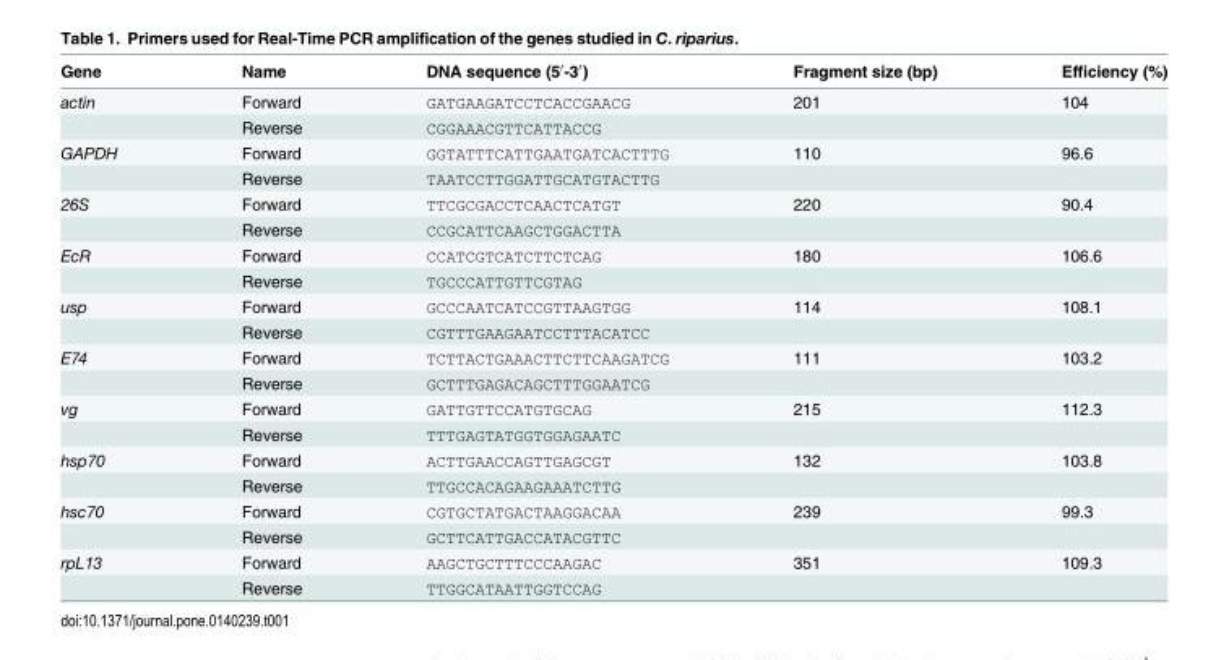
<table><thead><tr><td>Gene</td><td>Name</td><td>DNA sequence (5′-3′)</td><td>Fragment size (bp)</td><td>Efficiency (%)</td></tr></thead><tbody><tr><td rowspan="2">actin</td><td>Forward</td><td>GATGAAGATCCTCACCGAACG</td><td>201</td><td>104</td></tr><tr><td>Reverse</td><td>CGGAAACGTTCATTACCG</td><td></td><td></td></tr><tr><td rowspan="2">GAPDH</td><td>Forward</td><td>GGTATTTCATTGAATGATCACTTTG</td><td>110</td><td>96.6</td></tr><tr><td>Reverse</td><td>TAATCCTTGGATTGCATGTACTTG</td><td></td><td></td></tr><tr><td rowspan="2">26S</td><td>Forward</td><td>TTCGCGACCTCAACTCATGT</td><td>220</td><td>90.4</td></tr><tr><td>Reverse</td><td>CCGCATTCAAGCTGGACTTA</td><td></td><td></td></tr><tr><td rowspan="2">EcR</td><td>Forward</td><td>CCATCGTCATCTTCTCAG</td><td>180</td><td>106.6</td></tr><tr><td>Reverse</td><td>TGCCCATTGTTCGTAG</td><td></td><td></td></tr><tr><td rowspan="2">usp</td><td>Forward</td><td>GCCCAATCATCCGTTAAGTGG</td><td>114</td><td>108.1</td></tr><tr><td>Reverse</td><td>CGTTTGAAGAATCCTTTACATCC</td><td></td><td></td></tr><tr><td rowspan="2">E74</td><td>Forward</td><td>TCTTACTGAAACTTCTTCAAGATCG</td><td>111</td><td>103.2</td></tr><tr><td>Reverse</td><td>GCTTTGAGACAGCTTTGGAATCG</td><td></td><td></td></tr><tr><td rowspan="2">vg</td><td>Forward</td><td>GATTGTTCCATGTGCAG</td><td>215</td><td>112.3</td></tr><tr><td>Reverse</td><td>TTTGAGTATGGTGGAGAATC</td><td></td><td></td></tr><tr><td rowspan="2">hsp70</td><td>Forward</td><td>ACTTGAACCAGTTGAGCGT</td><td>132</td><td>103.8</td></tr><tr><td>Reverse</td><td>TTGCCACAGAAGAAATCTTG</td><td></td><td></td></tr><tr><td rowspan="2">hsc70</td><td>Forward</td><td>CGTGCTATGACTAAGGACAA</td><td>239</td><td>99.3</td></tr><tr><td>Reverse</td><td>GCTTCATTGACCATACGTTC</td><td></td><td></td></tr><tr><td rowspan="2">rpL13</td><td>Forward</td><td>AAGCTGCTTTCCCAAGAC</td><td>351</td><td>109.3</td></tr><tr><td>Reverse</td><td>TTGGCATAATTGGTCCAG</td><td></td><td></td></tr></tbody></table>